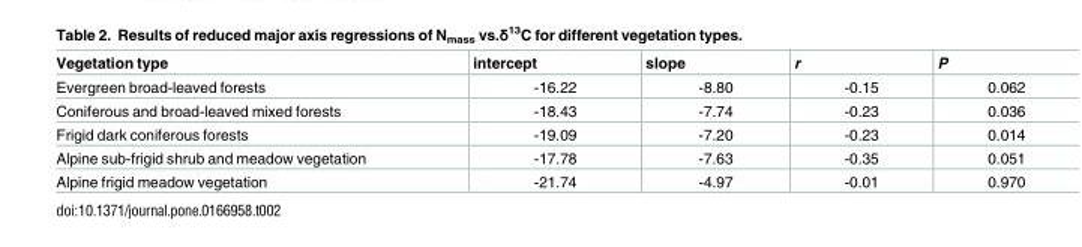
<table><thead><tr><td>Vegetation type</td><td>intercept</td><td>slope</td><td>r</td><td>P</td></tr></thead><tbody><tr><td>Evergreen broad-leaved forests</td><td>-16.22</td><td>-8.80</td><td>-0.15</td><td>0.062</td></tr><tr><td>Coniferous and broad-leaved mixed forests</td><td>-18.43</td><td>-7.74</td><td>-0.23</td><td>0.036</td></tr><tr><td>Frigid dark coniferous forests</td><td>-19.09</td><td>-7.20</td><td>-0.23</td><td>0.014</td></tr><tr><td>Alpine sub-frigid shrub and meadow vegetation</td><td>-17.78</td><td>-7.63</td><td>-0.35</td><td>0.051</td></tr><tr><td>Alpine frigid meadow vegetation</td><td>-21.74</td><td>-4.97</td><td>-0.01</td><td>0.970</td></tr></tbody></table>